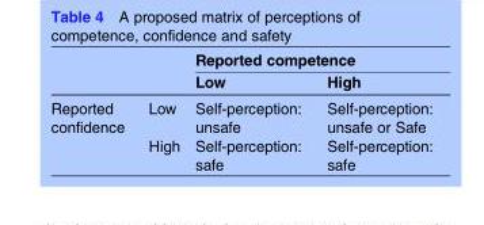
<table><thead><tr><td rowspan="2"></td><td rowspan="2"></td><td colspan="2">Reported competence</td></tr><tr><td>Low</td><td>High</td></tr></thead><tbody><tr><td rowspan="2">Reported confidence</td><td>Low</td><td>Self-perception: unsafe</td><td>Self-perception: unsafe or Safe</td></tr><tr><td>High</td><td>Self-perception: safe</td><td>Self-perception: safe</td></tr></tbody></table>